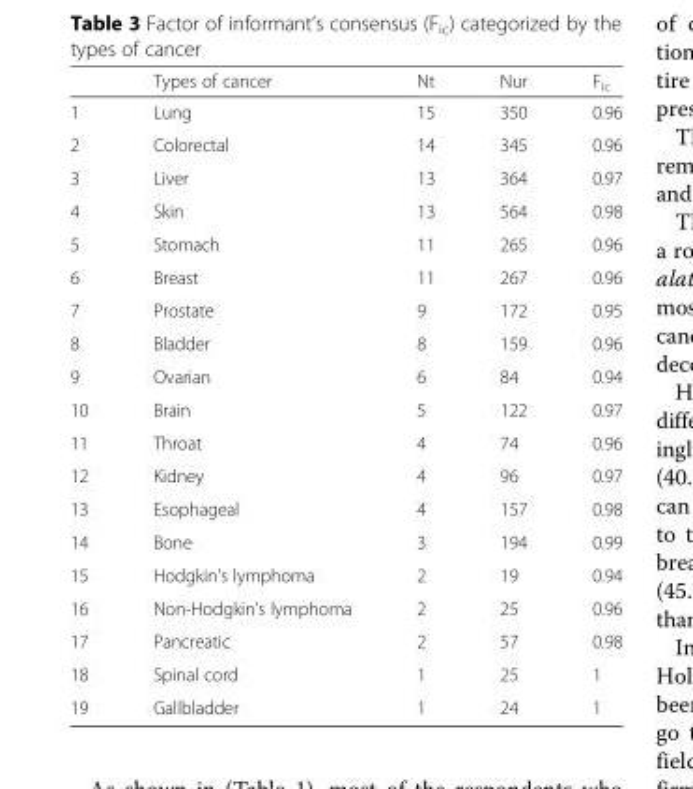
<table><thead><tr><td></td><td>Types of cancer</td><td>Nt</td><td>Nur</td><td>F<sub>ic</sub></td></tr></thead><tbody><tr><td>1</td><td>Lung</td><td>15</td><td>350</td><td>0.96</td></tr><tr><td>2</td><td>Colorectal</td><td>14</td><td>345</td><td>0.96</td></tr><tr><td>3</td><td>Liver</td><td>13</td><td>364</td><td>0.97</td></tr><tr><td>4</td><td>Skin</td><td>13</td><td>564</td><td>0.98</td></tr><tr><td>5</td><td>Stomach</td><td>11</td><td>265</td><td>0.96</td></tr><tr><td>6</td><td>Breast</td><td>11</td><td>267</td><td>0.96</td></tr><tr><td>7</td><td>Prostate</td><td>9</td><td>172</td><td>0.95</td></tr><tr><td>8</td><td>Bladder</td><td>8</td><td>159</td><td>0.96</td></tr><tr><td>9</td><td>Ovarian</td><td>6</td><td>84</td><td>0.94</td></tr><tr><td>10</td><td>Brain</td><td>5</td><td>122</td><td>0.97</td></tr><tr><td>11</td><td>Throat</td><td>4</td><td>74</td><td>0.96</td></tr><tr><td>12</td><td>Kidney</td><td>4</td><td>96</td><td>0.97</td></tr><tr><td>13</td><td>Esophageal</td><td>4</td><td>157</td><td>0.98</td></tr><tr><td>14</td><td>Bone</td><td>3</td><td>194</td><td>0.99</td></tr><tr><td>15</td><td>Hodgkin&#x27;s lymphoma</td><td>2</td><td>19</td><td>0.94</td></tr><tr><td>16</td><td>Non-Hodgkin&#x27;s lymphoma</td><td>2</td><td>25</td><td>0.96</td></tr><tr><td>17</td><td>Pancreatic</td><td>2</td><td>57</td><td>0.98</td></tr><tr><td>18</td><td>Spinal cord</td><td>1</td><td>25</td><td>1</td></tr><tr><td>19</td><td>Gallbladder</td><td>1</td><td>24</td><td>1</td></tr></tbody></table>